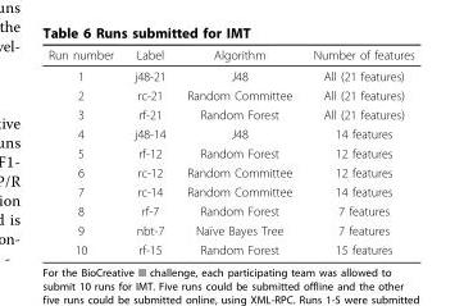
<table><thead><tr><td>Run number</td><td>Label</td><td>Algorithm</td><td>Number of features</td></tr></thead><tbody><tr><td>1</td><td>j48-21</td><td>J48</td><td>All (21 features)</td></tr><tr><td>2</td><td>rc-21</td><td>Random Committee</td><td>All (21 features)</td></tr><tr><td>3</td><td>rf-21</td><td>Random Forest</td><td>All (21 features)</td></tr><tr><td>4</td><td>j48-14</td><td>J48</td><td>14 features</td></tr><tr><td>5</td><td>rf-12</td><td>Random Forest</td><td>12 features</td></tr><tr><td>6</td><td>rc-12</td><td>Random Committee</td><td>12 features</td></tr><tr><td>7</td><td>rc-14</td><td>Random Committee</td><td>14 features</td></tr><tr><td>8</td><td>rf-7</td><td>Random Forest</td><td>7 features</td></tr><tr><td>9</td><td>nbt-7</td><td>Naïve Bayes Tree</td><td>7 features</td></tr><tr><td>10</td><td>rf-15</td><td>Random Forest</td><td>15 features</td></tr></tbody></table>